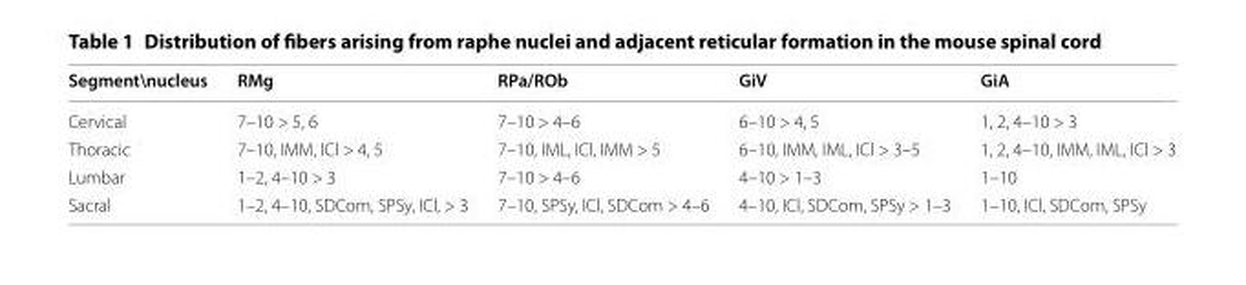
<table><thead><tr><td>Segment\nucleus</td><td>RMg</td><td>RPa/ROb</td><td>GiV</td><td>GiA</td></tr></thead><tbody><tr><td>Cervical</td><td>7–10 &gt; 5, 6</td><td>7–10 &gt; 4–6</td><td>6–10 &gt; 4, 5</td><td>1, 2, 4–10 &gt; 3</td></tr><tr><td>Thoracic</td><td>7–10, IMM, ICl &gt; 4, 5</td><td>7–10, IML, ICl, IMM &gt; 5</td><td>6–10, IMM, IML, ICl &gt; 3–5</td><td>1, 2, 4–10, IMM, IML, ICl &gt; 3</td></tr><tr><td>Lumbar</td><td>1–2, 4–10 &gt; 3</td><td>7–10 &gt; 4–6</td><td>4–10 &gt; 1–3</td><td>1–10</td></tr><tr><td>Sacral</td><td>1–2, 4–10, SDCom, SPSy, ICl, &gt; 3</td><td>7–10, SPSy, ICl, SDCom &gt; 4–6</td><td>4–10, ICl, SDCom, SPSy &gt; 1–3</td><td>1–10, ICl, SDCom, SPSy</td></tr></tbody></table>